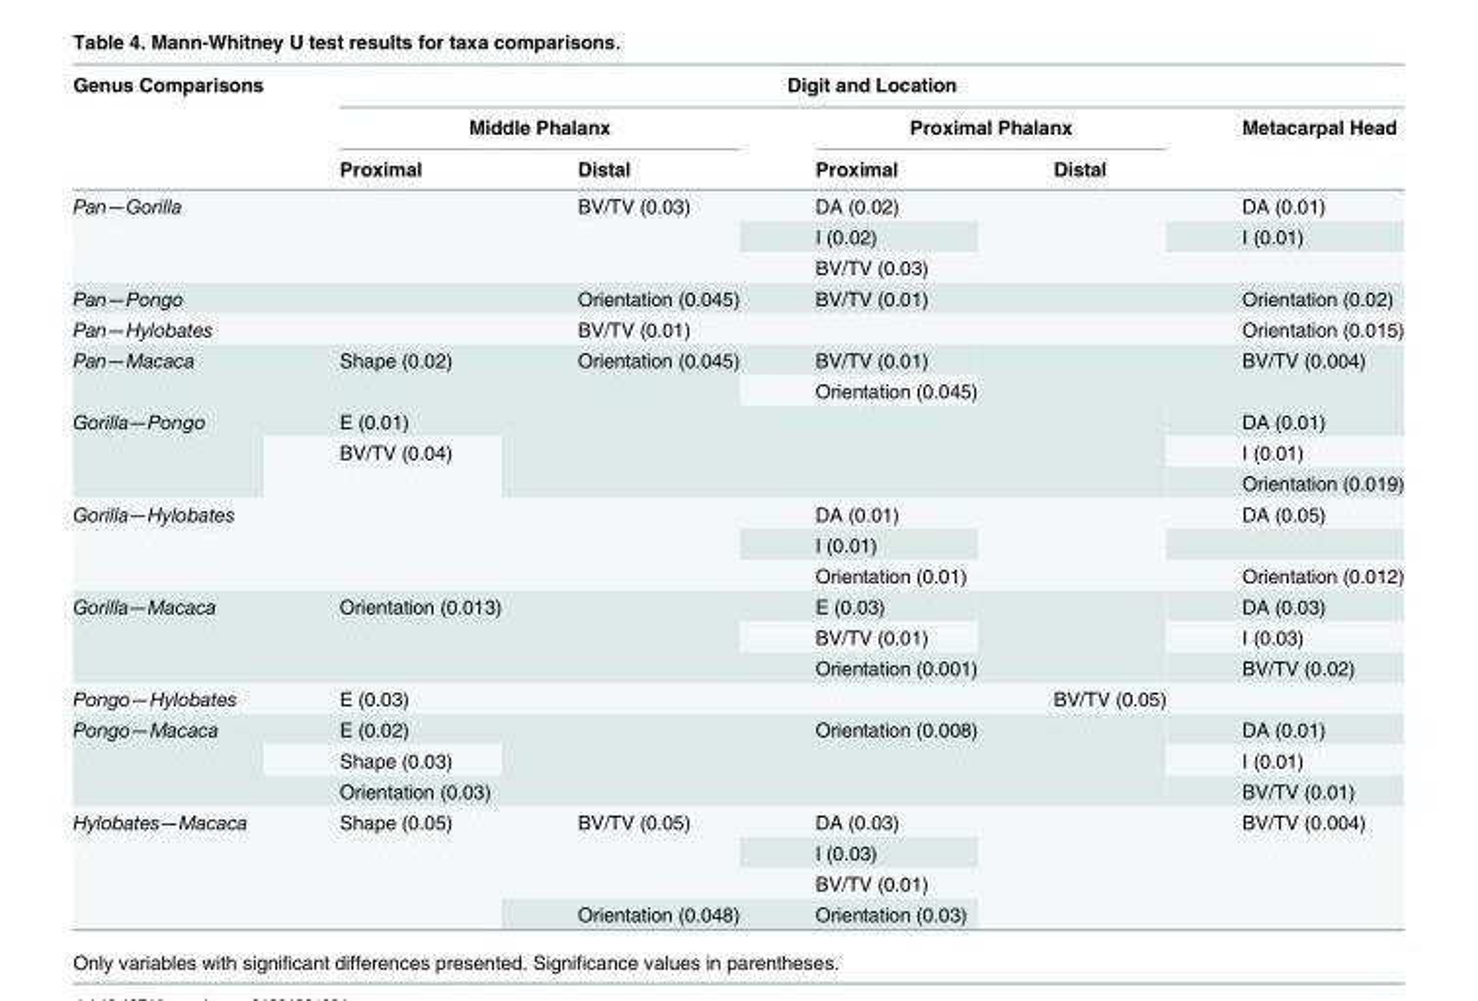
<table><thead><tr><td rowspan="3">Genus Comparisons</td><td colspan="5">Digit and Location</td></tr><tr><td colspan="2">Middle Phalanx</td><td colspan="2">Proximal Phalanx</td><td rowspan="2">Metacarpal Head</td></tr><tr><td>Proximal</td><td>Distal</td><td>Proximal</td><td>Distal</td></tr></thead><tbody><tr><td rowspan="3">Pan—Gorilla</td><td rowspan="3"></td><td rowspan="3">BV/TV (0.03)</td><td>DA (0.02)</td><td rowspan="3"></td><td>DA (0.01)</td></tr><tr><td>I (0.02)</td><td>I (0.01)</td></tr><tr><td>BV/TV (0.03)</td><td></td></tr><tr><td>Pan—Pongo</td><td></td><td>Orientation (0.045)</td><td>BV/TV (0.01)</td><td></td><td>Orientation (0.02)</td></tr><tr><td>Pan—Hylobates</td><td></td><td>BV/TV (0.01)</td><td></td><td></td><td>Orientation (0.015)</td></tr><tr><td rowspan="2">Pan—Macaca</td><td rowspan="2">Shape (0.02)</td><td rowspan="2">Orientation (0.045)</td><td>BV/TV (0.01)</td><td rowspan="2"></td><td rowspan="2">BV/TV (0.004)</td></tr><tr><td>Orientation (0.045)</td></tr><tr><td rowspan="3">Gorilla—Pongo</td><td>E (0.01)</td><td rowspan="3"></td><td rowspan="3"></td><td rowspan="3"></td><td>DA (0.01)</td></tr><tr><td rowspan="2">BV/TV (0.04)</td><td>I (0.01)</td></tr><tr><td>Orientation (0.019)</td></tr><tr><td rowspan="3">Gorilla—Hylobates</td><td rowspan="3"></td><td rowspan="3"></td><td>DA (0.01)</td><td rowspan="3"></td><td>DA (0.05)</td></tr><tr><td>I (0.01)</td><td></td></tr><tr><td>Orientation (0.01)</td><td>Orientation (0.012)</td></tr><tr><td rowspan="3">Gorilla—Macaca</td><td rowspan="3">Orientation (0.013)</td><td rowspan="3"></td><td>E (0.03)</td><td rowspan="3"></td><td>DA (0.03)</td></tr><tr><td>BV/TV (0.01)</td><td>I (0.03)</td></tr><tr><td>Orientation (0.001)</td><td>BV/TV (0.02)</td></tr><tr><td>Pongo—Hylobates</td><td>E (0.03)</td><td></td><td></td><td>BV/TV (0.05)</td><td></td></tr><tr><td rowspan="3">Pongo—Macaca</td><td>E (0.02)</td><td rowspan="3"></td><td rowspan="3">Orientation (0.008)</td><td rowspan="3"></td><td>DA (0.01)</td></tr><tr><td>Shape (0.03)</td><td>I (0.01)</td></tr><tr><td>Orientation (0.03)</td><td>BV/TV (0.01)</td></tr><tr><td rowspan="4">Hylobates—Macaca</td><td rowspan="4">Shape (0.05)</td><td rowspan="3">BV/TV (0.05)</td><td>DA (0.03)</td><td rowspan="4"></td><td rowspan="4">BV/TV (0.004)</td></tr><tr><td>I (0.03)</td></tr><tr><td>BV/TV (0.01)</td></tr><tr><td>Orientation (0.048)</td><td>Orientation (0.03)</td></tr></tbody></table>